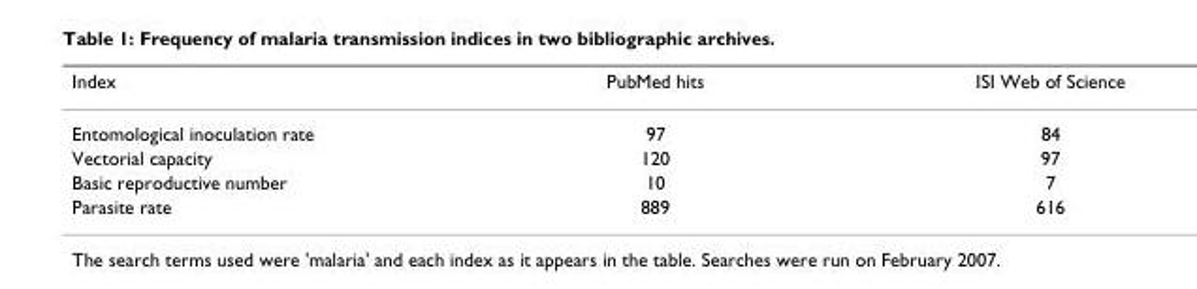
<table><thead><tr><td>Index</td><td>PubMed hits</td><td>ISI Web of Science</td></tr></thead><tbody><tr><td>Entomological inoculation rate</td><td>97</td><td>84</td></tr><tr><td>Vectorial capacity</td><td>120</td><td>97</td></tr><tr><td>Basic reproductive number</td><td>10</td><td>7</td></tr><tr><td>Parasite rate</td><td>889</td><td>616</td></tr></tbody></table>